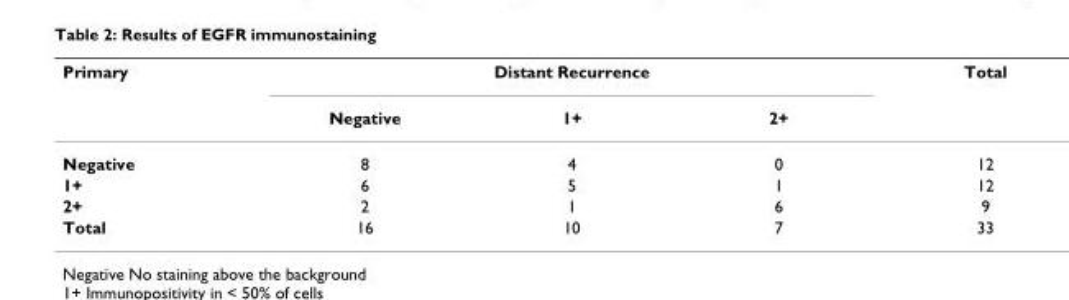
<table><thead><tr><td rowspan="2">Primary</td><td colspan="3">Distant Recurrence</td><td rowspan="2">Total</td></tr><tr><td>Negative</td><td>1+</td><td>2+</td></tr></thead><tbody><tr><td>Negative</td><td>8</td><td>4</td><td>0</td><td>12</td></tr><tr><td>1+</td><td>6</td><td>5</td><td>1</td><td>12</td></tr><tr><td>2+</td><td>2</td><td>1</td><td>6</td><td>9</td></tr><tr><td>Total</td><td>16</td><td>10</td><td>7</td><td>33</td></tr></tbody></table>